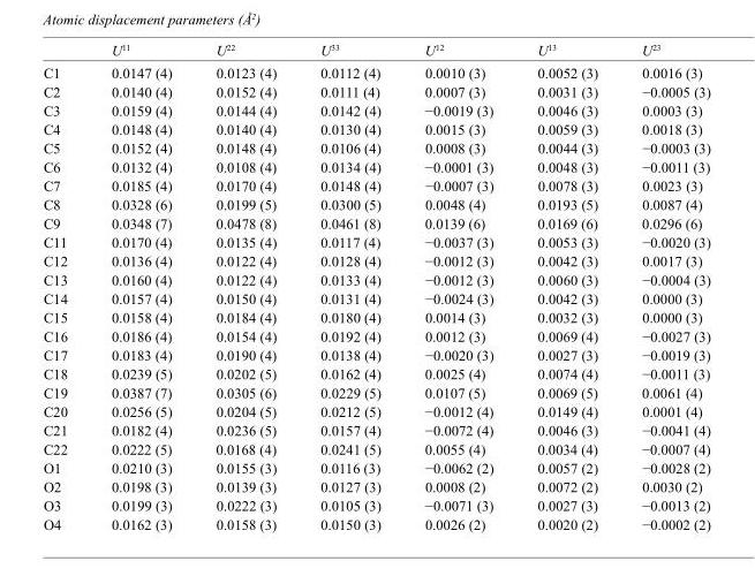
<table><thead><tr><td></td><td>U<sup>11</sup></td><td>U<sup>22</sup></td><td>U<sup>33</sup></td><td>U<sup>12</sup></td><td>U<sup>13</sup></td><td>U<sup>23</sup></td></tr></thead><tbody><tr><td>C1</td><td>0.0147 (4)</td><td>0.0123 (4)</td><td>0.0112 (4)</td><td>0.0010 (3)</td><td>0.0052 (3)</td><td>0.0016 (3)</td></tr><tr><td>C2</td><td>0.0140 (4)</td><td>0.0152 (4)</td><td>0.0111 (4)</td><td>0.0007 (3)</td><td>0.0031 (3)</td><td>−0.0005 (3)</td></tr><tr><td>C3</td><td>0.0159 (4)</td><td>0.0144 (4)</td><td>0.0142 (4)</td><td>−0.0019 (3)</td><td>0.0046 (3)</td><td>0.0003 (3)</td></tr><tr><td>C4</td><td>0.0148 (4)</td><td>0.0140 (4)</td><td>0.0130 (4)</td><td>0.0015 (3)</td><td>0.0059 (3)</td><td>0.0018 (3)</td></tr><tr><td>C5</td><td>0.0152 (4)</td><td>0.0148 (4)</td><td>0.0106 (4)</td><td>0.0008 (3)</td><td>0.0044 (3)</td><td>−0.0003 (3)</td></tr><tr><td>C6</td><td>0.0132 (4)</td><td>0.0108 (4)</td><td>0.0134 (4)</td><td>−0.0001 (3)</td><td>0.0048 (3)</td><td>−0.0011 (3)</td></tr><tr><td>C7</td><td>0.0185 (4)</td><td>0.0170 (4)</td><td>0.0148 (4)</td><td>−0.0007 (3)</td><td>0.0078 (3)</td><td>0.0023 (3)</td></tr><tr><td>C8</td><td>0.0328 (6)</td><td>0.0199 (5)</td><td>0.0300 (5)</td><td>0.0048 (4)</td><td>0.0193 (5)</td><td>0.0087 (4)</td></tr><tr><td>C9</td><td>0.0348 (7)</td><td>0.0478 (8)</td><td>0.0461 (8)</td><td>0.0139 (6)</td><td>0.0169 (6)</td><td>0.0296 (6)</td></tr><tr><td>C11</td><td>0.0170 (4)</td><td>0.0135 (4)</td><td>0.0117 (4)</td><td>−0.0037 (3)</td><td>0.0053 (3)</td><td>−0.0020 (3)</td></tr><tr><td>C12</td><td>0.0136 (4)</td><td>0.0122 (4)</td><td>0.0128 (4)</td><td>−0.0012 (3)</td><td>0.0042 (3)</td><td>0.0017 (3)</td></tr><tr><td>C13</td><td>0.0160 (4)</td><td>0.0122 (4)</td><td>0.0133 (4)</td><td>−0.0012 (3)</td><td>0.0060 (3)</td><td>−0.0004 (3)</td></tr><tr><td>C14</td><td>0.0157 (4)</td><td>0.0150 (4)</td><td>0.0131 (4)</td><td>−0.0024 (3)</td><td>0.0042 (3)</td><td>0.0000 (3)</td></tr><tr><td>C15</td><td>0.0158 (4)</td><td>0.0184 (4)</td><td>0.0180 (4)</td><td>0.0014 (3)</td><td>0.0032 (3)</td><td>0.0000 (3)</td></tr><tr><td>C16</td><td>0.0186 (4)</td><td>0.0154 (4)</td><td>0.0192 (4)</td><td>0.0012 (3)</td><td>0.0069 (4)</td><td>−0.0027 (3)</td></tr><tr><td>C17</td><td>0.0183 (4)</td><td>0.0190 (4)</td><td>0.0138 (4)</td><td>−0.0020 (3)</td><td>0.0027 (3)</td><td>−0.0019 (3)</td></tr><tr><td>C18</td><td>0.0239 (5)</td><td>0.0202 (5)</td><td>0.0162 (4)</td><td>0.0025 (4)</td><td>0.0074 (4)</td><td>−0.0011 (3)</td></tr><tr><td>C19</td><td>0.0387 (7)</td><td>0.0305 (6)</td><td>0.0229 (5)</td><td>0.0107 (5)</td><td>0.0069 (5)</td><td>0.0061 (4)</td></tr><tr><td>C20</td><td>0.0256 (5)</td><td>0.0204 (5)</td><td>0.0212 (5)</td><td>−0.0012 (4)</td><td>0.0149 (4)</td><td>0.0001 (4)</td></tr><tr><td>C21</td><td>0.0182 (4)</td><td>0.0236 (5)</td><td>0.0157 (4)</td><td>−0.0072 (4)</td><td>0.0046 (3)</td><td>−0.0041 (4)</td></tr><tr><td>C22</td><td>0.0222 (5)</td><td>0.0168 (4)</td><td>0.0241 (5)</td><td>0.0055 (4)</td><td>0.0034 (4)</td><td>−0.0007 (4)</td></tr><tr><td>O1</td><td>0.0210 (3)</td><td>0.0155 (3)</td><td>0.0116 (3)</td><td>−0.0062 (2)</td><td>0.0057 (2)</td><td>−0.0028 (2)</td></tr><tr><td>O2</td><td>0.0198 (3)</td><td>0.0139 (3)</td><td>0.0127 (3)</td><td>0.0008 (2)</td><td>0.0072 (2)</td><td>0.0030 (2)</td></tr><tr><td>O3</td><td>0.0199 (3)</td><td>0.0222 (3)</td><td>0.0105 (3)</td><td>−0.0071 (3)</td><td>0.0027 (3)</td><td>−0.0013 (2)</td></tr><tr><td>O4</td><td>0.0162 (3)</td><td>0.0158 (3)</td><td>0.0150 (3)</td><td>0.0026 (2)</td><td>0.0020 (2)</td><td>−0.0002 (2)</td></tr></tbody></table>